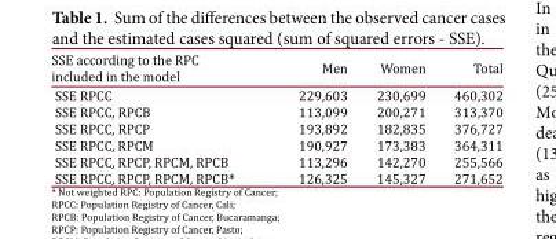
<table><thead><tr><td>SSE according to the RPC included in the model</td><td>Men</td><td>Women</td><td>Total</td></tr></thead><tbody><tr><td>SSE RPCC</td><td>229,603</td><td>230,699</td><td>460,302</td></tr><tr><td>SSE RPCC, RPCB</td><td>113,099</td><td>200,271</td><td>313,370</td></tr><tr><td>SSE RPCC, RPCP</td><td>193,892</td><td>182,835</td><td>376,727</td></tr><tr><td>SSE RPCC, RPCM</td><td>190,927</td><td>173,383</td><td>364,311</td></tr><tr><td>SSE RPCC, RPCP, RPCM, RPCB</td><td>113,296</td><td>142,270</td><td>255,566</td></tr><tr><td>SSE RPCC, RPCP, RPCM, RPCB*</td><td>126,325</td><td>145,327</td><td>271,652</td></tr></tbody></table>